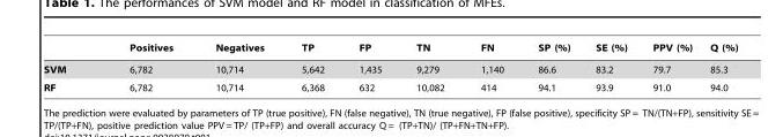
<table><thead><tr><td></td><td>Positives</td><td>Negatives</td><td>TP</td><td>FP</td><td>TN</td><td>FN</td><td>SP (%)</td><td>SE (%)</td><td>PPV (%)</td><td>Q (%)</td></tr></thead><tbody><tr><td>SVM</td><td>6,782</td><td>10,714</td><td>5,642</td><td>1,435</td><td>9,279</td><td>1,140</td><td>86.6</td><td>83.2</td><td>79.7</td><td>85.3</td></tr><tr><td>RF</td><td>6,782</td><td>10,714</td><td>6,368</td><td>632</td><td>10,082</td><td>414</td><td>94.1</td><td>93.9</td><td>91.0</td><td>94.0</td></tr></tbody></table>